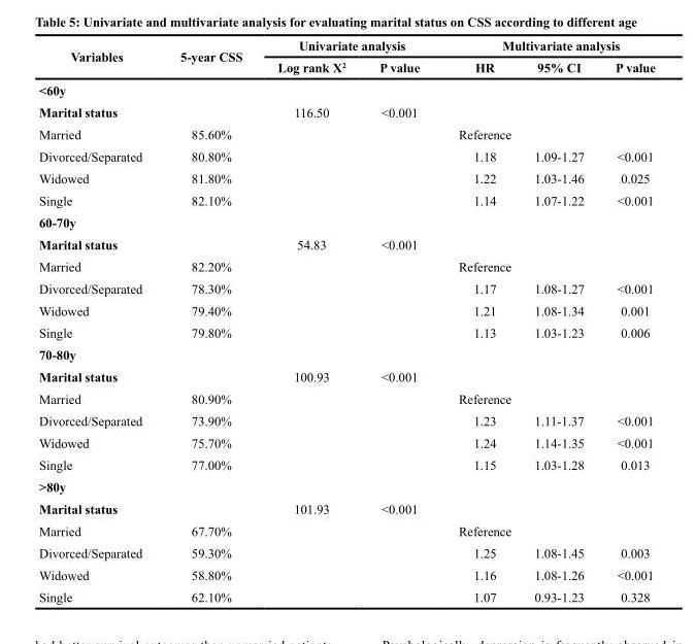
<table><thead><tr><td rowspan="2">Variables</td><td rowspan="2">5-year CSS</td><td colspan="2">Univariate analysis</td><td colspan="3">Multivariate analysis</td></tr><tr><td>Log rank Χ<sup>2</sup></td><td>P value</td><td>HR</td><td>95% CI</td><td>P value</td></tr></thead><tbody><tr><td colspan="7">&lt;60y</td></tr><tr><td>Marital status</td><td></td><td>116.50</td><td>&lt;0.001</td><td></td><td></td><td></td></tr><tr><td>Married</td><td>85.60%</td><td></td><td></td><td>Reference</td><td></td><td></td></tr><tr><td>Divorced/Separated</td><td>80.80%</td><td></td><td></td><td>1.18</td><td>1.09-1.27</td><td>&lt;0.001</td></tr><tr><td>Widowed</td><td>81.80%</td><td></td><td></td><td>1.22</td><td>1.03-1.46</td><td>0.025</td></tr><tr><td>Single</td><td>82.10%</td><td></td><td></td><td>1.14</td><td>1.07-1.22</td><td>&lt;0.001</td></tr><tr><td colspan="7">60-70y</td></tr><tr><td>Marital status</td><td></td><td>54.83</td><td>&lt;0.001</td><td></td><td></td><td></td></tr><tr><td>Married</td><td>82.20%</td><td></td><td></td><td>Reference</td><td></td><td></td></tr><tr><td>Divorced/Separated</td><td>78.30%</td><td></td><td></td><td>1.17</td><td>1.08-1.27</td><td>&lt;0.001</td></tr><tr><td>Widowed</td><td>79.40%</td><td></td><td></td><td>1.21</td><td>1.08-1.34</td><td>0.001</td></tr><tr><td>Single</td><td>79.80%</td><td></td><td></td><td>1.13</td><td>1.03-1.23</td><td>0.006</td></tr><tr><td colspan="7">70-80y</td></tr><tr><td>Marital status</td><td></td><td>100.93</td><td>&lt;0.001</td><td></td><td></td><td></td></tr><tr><td>Married</td><td>80.90%</td><td></td><td></td><td>Reference</td><td></td><td></td></tr><tr><td>Divorced/Separated</td><td>73.90%</td><td></td><td></td><td>1.23</td><td>1.11-1.37</td><td>&lt;0.001</td></tr><tr><td>Widowed</td><td>75.70%</td><td></td><td></td><td>1.24</td><td>1.14-1.35</td><td>&lt;0.001</td></tr><tr><td>Single</td><td>77.00%</td><td></td><td></td><td>1.15</td><td>1.03-1.28</td><td>0.013</td></tr><tr><td colspan="7">&gt;80y</td></tr><tr><td>Marital status</td><td></td><td>101.93</td><td>&lt;0.001</td><td></td><td></td><td></td></tr><tr><td>Married</td><td>67.70%</td><td></td><td></td><td>Reference</td><td></td><td></td></tr><tr><td>Divorced/Separated</td><td>59.30%</td><td></td><td></td><td>1.25</td><td>1.08-1.45</td><td>0.003</td></tr><tr><td>Widowed</td><td>58.80%</td><td></td><td></td><td>1.16</td><td>1.08-1.26</td><td>&lt;0.001</td></tr><tr><td>Single</td><td>62.10%</td><td></td><td></td><td>1.07</td><td>0.93-1.23</td><td>0.328</td></tr></tbody></table>